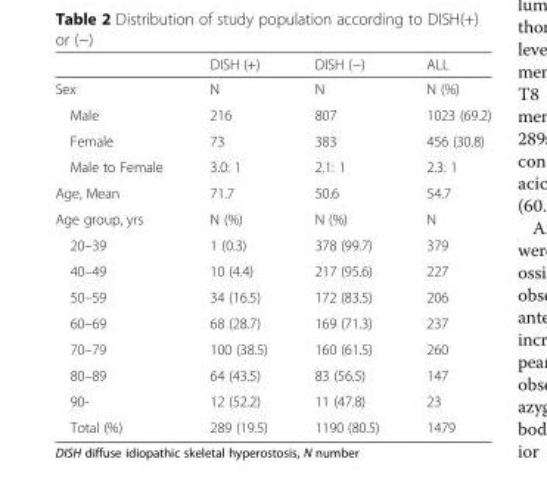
<table><thead><tr><td></td><td>DISH (+)</td><td>DISH (−)</td><td>ALL</td></tr></thead><tbody><tr><td>Sex</td><td>N</td><td>N</td><td>N (%)</td></tr><tr><td>Male</td><td>216</td><td>807</td><td>1023 (69.2)</td></tr><tr><td>Female</td><td>73</td><td>383</td><td>456 (30.8)</td></tr><tr><td>Male to Female</td><td>3.0: 1</td><td>2.1: 1</td><td>2.3: 1</td></tr><tr><td>Age, Mean</td><td>71.7</td><td>50.6</td><td>54.7</td></tr><tr><td>Age group, yrs</td><td>N (%)</td><td>N (%)</td><td>N</td></tr><tr><td>20–39</td><td>1 (0.3)</td><td>378 (99.7)</td><td>379</td></tr><tr><td>40–49</td><td>10 (4.4)</td><td>217 (95.6)</td><td>227</td></tr><tr><td>50–59</td><td>34 (16.5)</td><td>172 (83.5)</td><td>206</td></tr><tr><td>60–69</td><td>68 (28.7)</td><td>169 (71.3)</td><td>237</td></tr><tr><td>70–79</td><td>100 (38.5)</td><td>160 (61.5)</td><td>260</td></tr><tr><td>80–89</td><td>64 (43.5)</td><td>83 (56.5)</td><td>147</td></tr><tr><td>90-</td><td>12 (52.2)</td><td>11 (47.8)</td><td>23</td></tr><tr><td>Total (%)</td><td>289 (19.5)</td><td>1190 (80.5)</td><td>1479</td></tr></tbody></table>